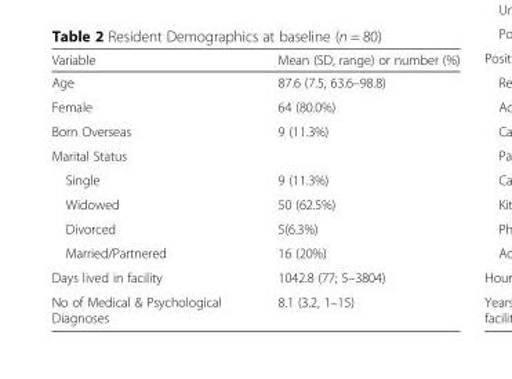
<table><thead><tr><td>Variable</td><td>Mean (SD, range) or number (%)</td></tr></thead><tbody><tr><td>Age</td><td>87.6 (7.5, 63.6–98.8)</td></tr><tr><td>Female</td><td>64 (80.0%)</td></tr><tr><td>Born Overseas</td><td>9 (11.3%)</td></tr><tr><td colspan="2">Marital Status</td></tr><tr><td>Single</td><td>9 (11.3%)</td></tr><tr><td>Widowed</td><td>50 (62.5%)</td></tr><tr><td>Divorced</td><td>5(6.3%)</td></tr><tr><td>Married/Partnered</td><td>16 (20%)</td></tr><tr><td>Days lived in facility</td><td>1042.8 (77; 5–3804)</td></tr><tr><td>No of Medical &amp; Psychological Diagnoses</td><td>8.1 (3.2, 1–15)</td></tr></tbody></table>